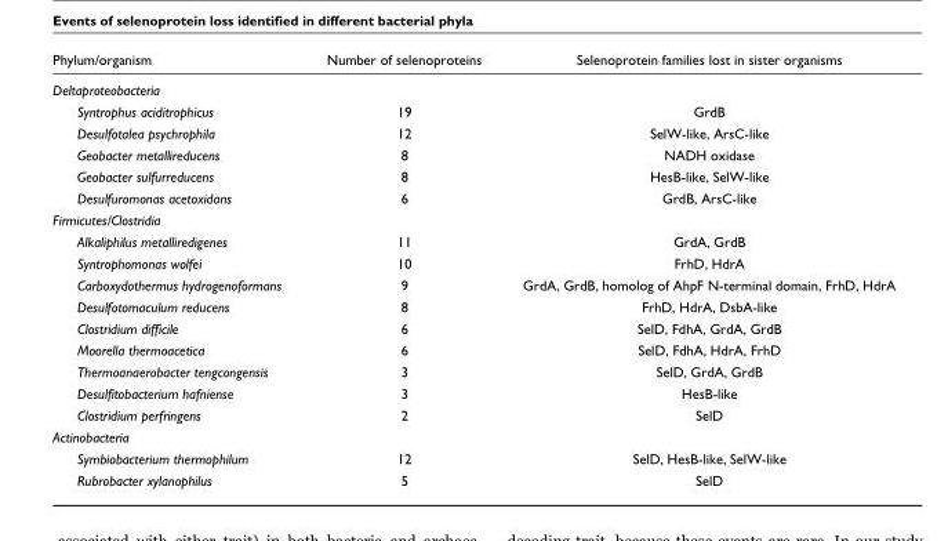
<table><thead><tr><td>Phylum/organism</td><td>Number of selenoproteins</td><td>Selenoprotein families lost in sister organisms</td></tr></thead><tbody><tr><td colspan="3">Deltaproteobacteria</td></tr><tr><td>Syntrophus aciditrophicus</td><td>19</td><td>GrdB</td></tr><tr><td>Desulfotalea psychrophila</td><td>12</td><td>SelW-like, ArsC-like</td></tr><tr><td>Geobacter metallireducens</td><td>8</td><td>NADH oxidase</td></tr><tr><td>Geobacter sulfurreducens</td><td>8</td><td>HesB-like, SelW-like</td></tr><tr><td>Desulfuromonas acetoxidans</td><td>6</td><td>GrdB, ArsC-like</td></tr><tr><td colspan="3">Firmicutes/Clostridia</td></tr><tr><td>Alkaliphilus metalliredigenes</td><td>11</td><td>GrdA, GrdB</td></tr><tr><td>Syntrophomonas wolfei</td><td>10</td><td>FrhD, HdrA</td></tr><tr><td>Carboxydothermus hydrogenoformans</td><td>9</td><td>GrdA, GrdB, homolog of AhpF N-terminal domain, FrhD, HdrA</td></tr><tr><td>Desulfotomaculum reducens</td><td>8</td><td>FrhD, HdrA, DsbA-like</td></tr><tr><td>Clostridium difficile</td><td>6</td><td>SelD, FdhA, GrdA, GrdB</td></tr><tr><td>Moorella thermoacetica</td><td>6</td><td>SelD, FdhA, HdrA, FrhD</td></tr><tr><td>Thermoanaerobacter tengcongensis</td><td>3</td><td>SelD, GrdA, GrdB</td></tr><tr><td>Desulfitobacterium hafniense</td><td>3</td><td>HesB-like</td></tr><tr><td>Clostridium perfringens</td><td>2</td><td>SelD</td></tr><tr><td colspan="3">Actinobacteria</td></tr><tr><td>Symbiobacterium thermophilum</td><td>12</td><td>SelD, HesB-like, SelW-like</td></tr><tr><td>Rubrobacter xylanophilus</td><td>5</td><td>SelD</td></tr></tbody></table>